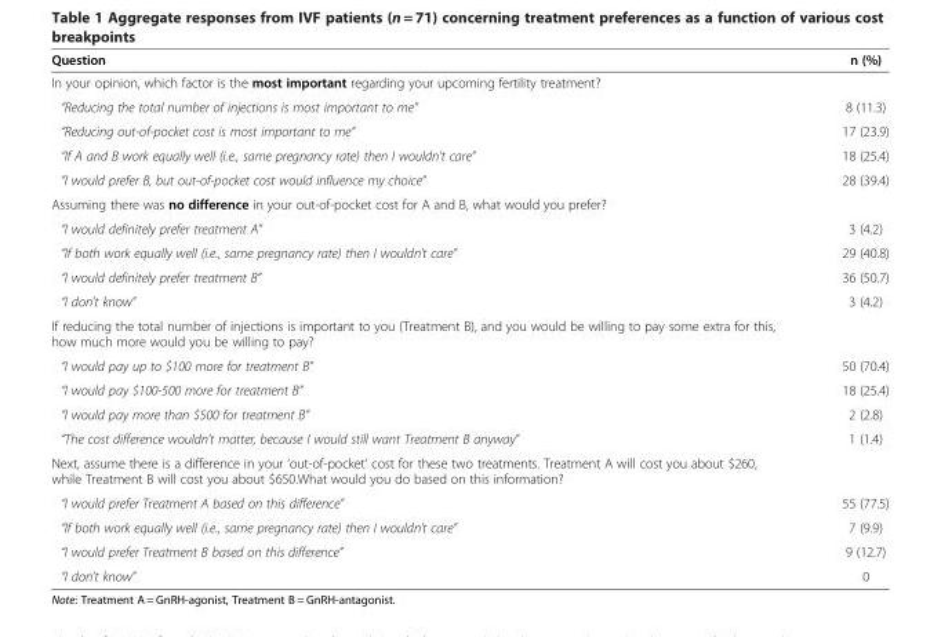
<table><thead><tr><td>Question</td><td>n (%)</td></tr></thead><tbody><tr><td colspan="2">In your opinion, which factor is the most important regarding your upcoming fertility treatment?</td></tr><tr><td>“Reducing the total number of injections is most important to me”</td><td>8 (11.3)</td></tr><tr><td>“Reducing out-of-pocket cost is most important to me”</td><td>17 (23.9)</td></tr><tr><td>“If A and B work equally well (i.e., same pregnancy rate) then I wouldn’t care”</td><td>18 (25.4)</td></tr><tr><td>”I would prefer B, but out-of-pocket cost would influence my choice”</td><td>28 (39.4)</td></tr><tr><td colspan="2">Assuming there was no difference in your out-of-pocket cost for A and B, what would you prefer?</td></tr><tr><td>“I would definitely prefer treatment A”</td><td>3 (4.2)</td></tr><tr><td>“If both work equally well (i.e., same pregnancy rate) then I wouldn’t care”</td><td>29 (40.8)</td></tr><tr><td>“I would definitely prefer treatment B”</td><td>36 (50.7)</td></tr><tr><td>“I don’t know”</td><td>3 (4.2)</td></tr><tr><td colspan="2">If reducing the total number of injections is important to you (Treatment B), and you would be willing to pay some extra for this, how much more would you be willing to pay?</td></tr><tr><td>“I would pay up to $100 more for treatment B”</td><td>50 (70.4)</td></tr><tr><td>“I would pay $100-500 more for treatment B”</td><td>18 (25.4)</td></tr><tr><td>“I would pay more than $500 for treatment B”</td><td>2 (2.8)</td></tr><tr><td>“The cost difference wouldn’t matter, because I would still want Treatment B anyway”</td><td>1 (1.4)</td></tr><tr><td colspan="2">Next, assume there is a difference in your ‘out-of-pocket’ cost for these two treatments. Treatment A will cost you about $260, while Treatment B will cost you about $650.What would you do based on this information?</td></tr><tr><td>“I would prefer Treatment A based on this difference”</td><td>55 (77.5)</td></tr><tr><td>“If both work equally well (i.e., same pregnancy rate) then I wouldn’t care”</td><td>7 (9.9)</td></tr><tr><td>“I would prefer Treatment B based on this difference”</td><td>9 (12.7)</td></tr><tr><td>“I don’t know”</td><td>0</td></tr></tbody></table>